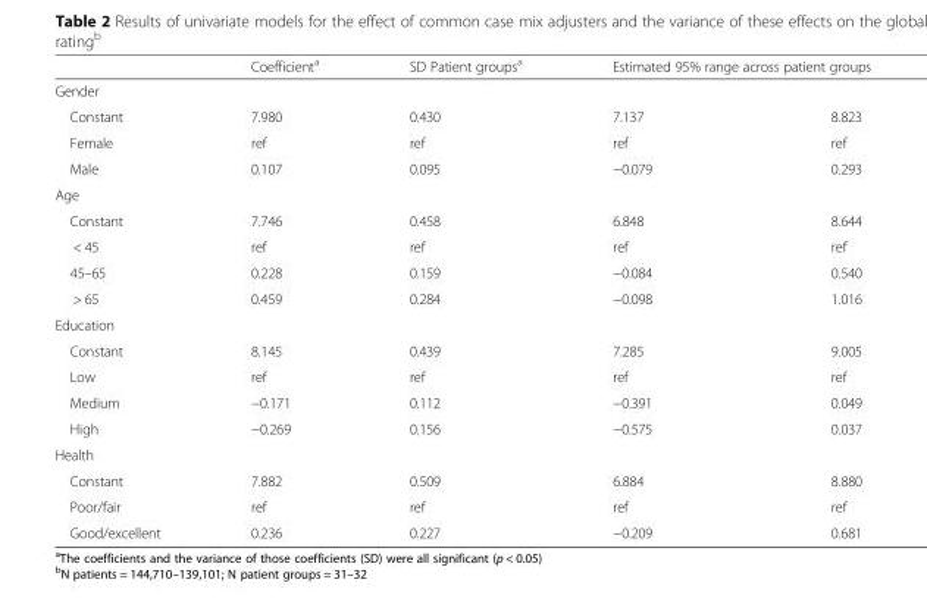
<table><thead><tr><td></td><td>Coefficient<sup>a</sup></td><td>SD Patient groups<sup>a</sup></td><td colspan="2">Estimated 95% range across patient groups</td></tr><tr><td colspan="5">Gender</td></tr><tr><td>Constant</td><td>7.980</td><td>0.430</td><td>7.137</td><td>8.823</td></tr></thead><tbody><tr><td>Female</td><td>ref</td><td>ref</td><td>ref</td><td>ref</td></tr><tr><td>Male</td><td>0.107</td><td>0.095</td><td>−0.079</td><td>0.293</td></tr><tr><td colspan="5">Age</td></tr><tr><td>Constant</td><td>7.746</td><td>0.458</td><td>6.848</td><td>8.644</td></tr><tr><td>&lt; 45</td><td>ref</td><td>ref</td><td>ref</td><td>ref</td></tr><tr><td>45–65</td><td>0.228</td><td>0.159</td><td>−0.084</td><td>0.540</td></tr><tr><td>&gt; 65</td><td>0.459</td><td>0.284</td><td>−0.098</td><td>1.016</td></tr><tr><td colspan="5">Education</td></tr><tr><td>Constant</td><td>8.145</td><td>0.439</td><td>7.285</td><td>9.005</td></tr><tr><td>Low</td><td>ref</td><td>ref</td><td>ref</td><td>ref</td></tr><tr><td>Medium</td><td>−0.171</td><td>0.112</td><td>−0.391</td><td>0.049</td></tr><tr><td>High</td><td>−0.269</td><td>0.156</td><td>−0.575</td><td>0.037</td></tr><tr><td colspan="5">Health</td></tr><tr><td>Constant</td><td>7.882</td><td>0.509</td><td>6.884</td><td>8.880</td></tr><tr><td>Poor/fair</td><td>ref</td><td>ref</td><td>ref</td><td>ref</td></tr><tr><td>Good/excellent</td><td>0.236</td><td>0.227</td><td>−0.209</td><td>0.681</td></tr></tbody></table>